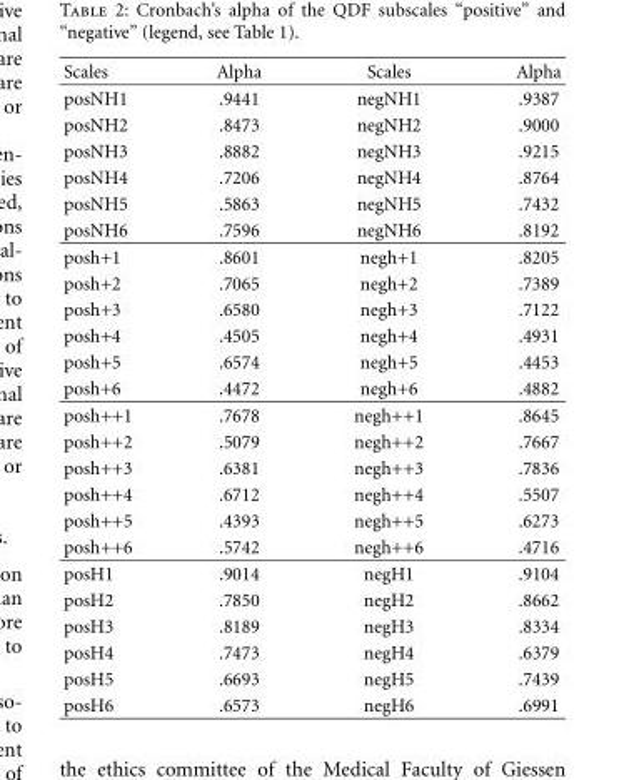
<table><thead><tr><td>Scales</td><td>Alpha</td><td>Scales</td><td>Alpha</td></tr></thead><tbody><tr><td>posNH1</td><td>.9441</td><td>negNH1</td><td>.9387</td></tr><tr><td>posNH2</td><td>.8473</td><td>negNH2</td><td>.9000</td></tr><tr><td>posNH3</td><td>.8882</td><td>negNH3</td><td>.9215</td></tr><tr><td>posNH4</td><td>.7206</td><td>negNH4</td><td>.8764</td></tr><tr><td>posNH5</td><td>.5863</td><td>negNH5</td><td>.7432</td></tr><tr><td>posNH6</td><td>.7596</td><td>negNH6</td><td>.8192</td></tr><tr><td>posh+1</td><td>.8601</td><td>negh+1</td><td>.8205</td></tr><tr><td>posh+2</td><td>.7065</td><td>negh+2</td><td>.7389</td></tr><tr><td>posh+3</td><td>.6580</td><td>negh+3</td><td>.7122</td></tr><tr><td>posh+4</td><td>.4505</td><td>negh+4</td><td>.4931</td></tr><tr><td>posh+5</td><td>.6574</td><td>negh+5</td><td>.4453</td></tr><tr><td>posh+6</td><td>.4472</td><td>negh+6</td><td>.4882</td></tr><tr><td>posh++1</td><td>.7678</td><td>negh++1</td><td>.8645</td></tr><tr><td>posh++2</td><td>.5079</td><td>negh++2</td><td>.7667</td></tr><tr><td>posh++3</td><td>.6381</td><td>negh++3</td><td>.7836</td></tr><tr><td>posh++4</td><td>.6712</td><td>negh++4</td><td>.5507</td></tr><tr><td>posh++5</td><td>.4393</td><td>negh++5</td><td>.6273</td></tr><tr><td>posh++6</td><td>.5742</td><td>negh++6</td><td>.4716</td></tr><tr><td>posH1</td><td>.9014</td><td>negH1</td><td>.9104</td></tr><tr><td>posH2</td><td>.7850</td><td>negH2</td><td>.8662</td></tr><tr><td>posH3</td><td>.8189</td><td>negH3</td><td>.8334</td></tr><tr><td>posH4</td><td>.7473</td><td>negH4</td><td>.6379</td></tr><tr><td>posH5</td><td>.6693</td><td>negH5</td><td>.7439</td></tr><tr><td>posH6</td><td>.6573</td><td>negH6</td><td>.6991</td></tr></tbody></table>